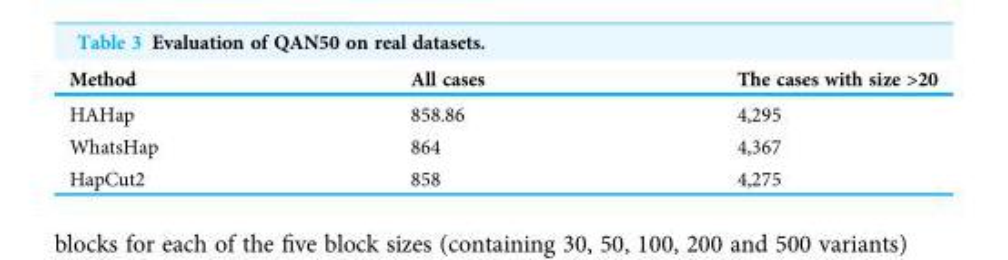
<table><thead><tr><td>Method</td><td>All cases</td><td>The cases with size &gt;20</td></tr></thead><tbody><tr><td>HAHap</td><td>858.86</td><td>4,295</td></tr><tr><td>WhatsHap</td><td>864</td><td>4,367</td></tr><tr><td>HapCut2</td><td>858</td><td>4,275</td></tr></tbody></table>